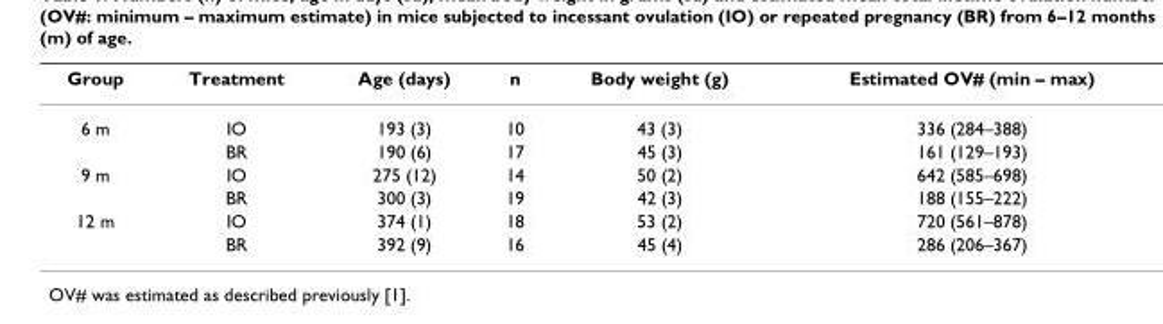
<table><thead><tr><td>Group</td><td>Treatment</td><td>Age (days)</td><td>n</td><td>Body weight (g)</td><td>Estimated OV# (min – max)</td></tr></thead><tbody><tr><td rowspan="2">6 m</td><td>IO</td><td>193 (3)</td><td>10</td><td>43 (3)</td><td>336 (284–388)</td></tr><tr><td>BR</td><td>190 (6)</td><td>17</td><td>45 (3)</td><td>161 (129–193)</td></tr><tr><td rowspan="2">9 m</td><td>IO</td><td>275 (12)</td><td>14</td><td>50 (2)</td><td>642 (585–698)</td></tr><tr><td>BR</td><td>300 (3)</td><td>19</td><td>42 (3)</td><td>188 (155–222)</td></tr><tr><td rowspan="2">12 m</td><td>IO</td><td>374 (1)</td><td>18</td><td>53 (2)</td><td>720 (561–878)</td></tr><tr><td>BR</td><td>392 (9)</td><td>16</td><td>45 (4)</td><td>286 (206–367)</td></tr></tbody></table>